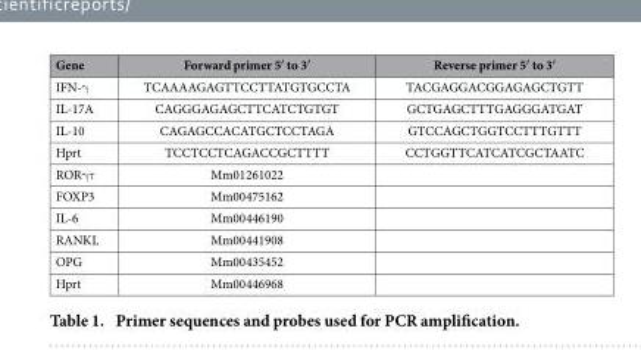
<table><thead><tr><td>Gene</td><td>Forward primer 5′ to 3′</td><td>Reverse primer 5′ to 3′</td></tr></thead><tbody><tr><td>IFN-γ</td><td>TCAAAAGAGTTCCTTATGTGCCTA</td><td>TACGAGGACGGAGAGCTGTT</td></tr><tr><td>IL-17A</td><td>CAGGGAGAGCTTCATCTGTGT</td><td>GCTGAGCTTTGAGGGATGAT</td></tr><tr><td>IL-10</td><td>CAGAGCCACATGCTCCTAGA</td><td>GTCCAGCTGGTCCTTTGTTT</td></tr><tr><td>Hprt</td><td>TCCTCCTCAGACCGCTTTT</td><td>CCTGGTTCATCATCGCTAATC</td></tr><tr><td>RORγ τ</td><td>Mm01261022</td><td></td></tr><tr><td>FOXP3</td><td>Mm00475162</td><td></td></tr><tr><td>IL-6</td><td>Mm00446190</td><td></td></tr><tr><td>RANKL</td><td>Mm00441908</td><td></td></tr><tr><td>OPG</td><td>Mm00435452</td><td></td></tr><tr><td>Hprt</td><td>Mm00446968</td><td></td></tr></tbody></table>